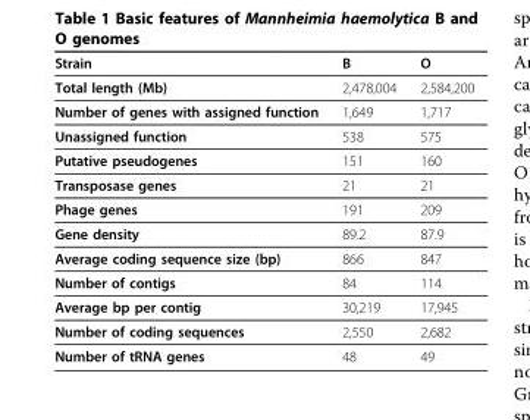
<table><thead><tr><td>Strain</td><td>B</td><td>O</td></tr></thead><tbody><tr><td>Total length (Mb)</td><td>2,478,004</td><td>2,584,200</td></tr><tr><td>Number of genes with assigned function</td><td>1,649</td><td>1,717</td></tr><tr><td>Unassigned function</td><td>538</td><td>575</td></tr><tr><td>Putative pseudogenes</td><td>151</td><td>160</td></tr><tr><td>Transposase genes</td><td>21</td><td>21</td></tr><tr><td>Phage genes</td><td>191</td><td>209</td></tr><tr><td>Gene density</td><td>89.2</td><td>87.9</td></tr><tr><td>Average coding sequence size (bp)</td><td>866</td><td>847</td></tr><tr><td>Number of contigs</td><td>84</td><td>114</td></tr><tr><td>Average bp per contig</td><td>30,219</td><td>17,945</td></tr><tr><td>Number of coding sequences</td><td>2,550</td><td>2,682</td></tr><tr><td>Number of tRNA genes</td><td>48</td><td>49</td></tr></tbody></table>